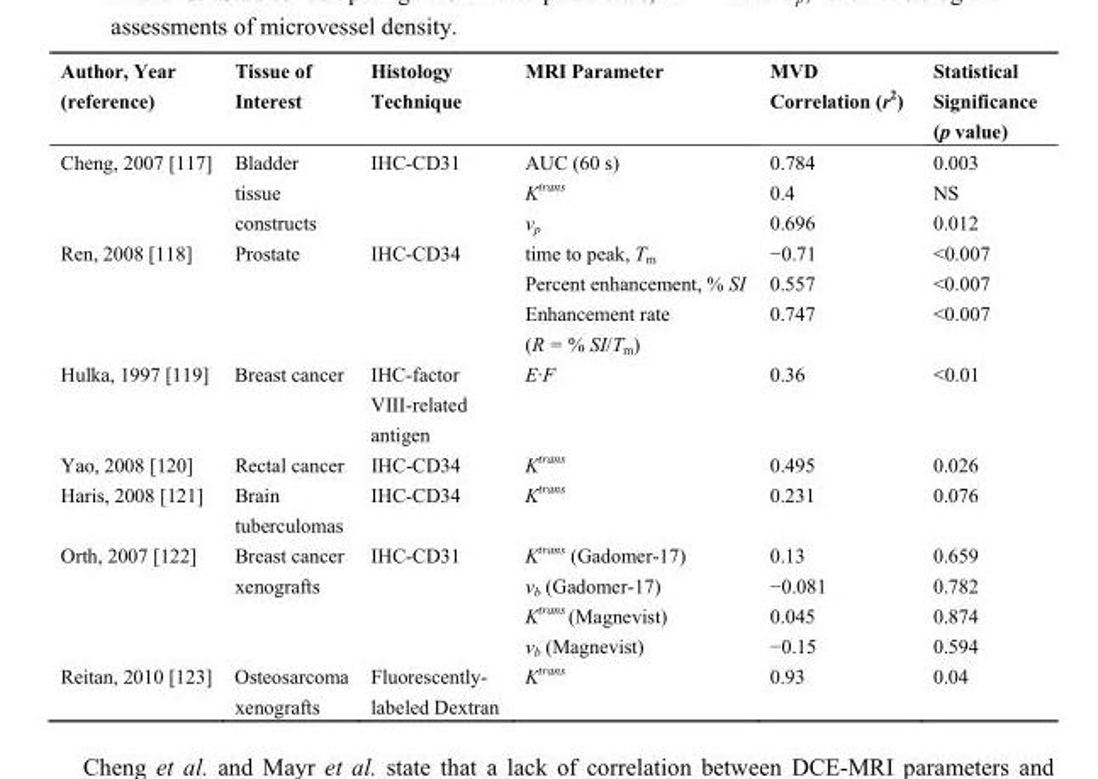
<table><thead><tr><td>Author, Year (reference)</td><td>Tissue of Interest</td><td>Histology Technique</td><td>MRI Parameter</td><td>MVD Correlation (r<sup>2</sup>)</td><td>Statistical Significance (p value)</td></tr></thead><tbody><tr><td rowspan="3">Cheng, 2007 [117]</td><td rowspan="3">Bladder tissue constructs</td><td rowspan="3">IHC-CD31</td><td>AUC (60 s)</td><td>0.784</td><td>0.003</td></tr><tr><td>K<sup>trans</sup></td><td>0.4</td><td>NS</td></tr><tr><td>v<sub>p</sub></td><td>0.696</td><td>0.012</td></tr><tr><td rowspan="3">Ren, 2008 [118]</td><td rowspan="3">Prostate</td><td rowspan="3">IHC-CD34</td><td>time to peak, T<sub>m</sub></td><td>−0.71</td><td>&lt;0.007</td></tr><tr><td>Percent enhancement, % SI</td><td>0.557</td><td>&lt;0.007</td></tr><tr><td>Enhancement rate (R = % SI/T<sub>m</sub>)</td><td>0.747</td><td>&lt;0.007</td></tr><tr><td>Hulka, 1997 [119]</td><td>Breast cancer</td><td>IHC-factor VIII-related antigen</td><td>E·F</td><td>0.36</td><td>&lt;0.01</td></tr><tr><td>Yao, 2008 [120]</td><td>Rectal cancer</td><td>IHC-CD34</td><td>K<sup>trans</sup></td><td>0.495</td><td>0.026</td></tr><tr><td>Haris, 2008 [121]</td><td>Brain tuberculomas</td><td>IHC-CD34</td><td>K<sup>trans</sup></td><td>0.231</td><td>0.076</td></tr><tr><td rowspan="4">Orth, 2007 [122]</td><td rowspan="4">Breast cancer xenografts</td><td rowspan="4">IHC-CD31</td><td>K<sup>trans</sup> (Gadomer-17)</td><td>0.13</td><td>0.659</td></tr><tr><td>v<sub>b</sub> (Gadomer-17)</td><td>−0.081</td><td>0.782</td></tr><tr><td>K<sup>trans</sup> (Magnevist)</td><td>0.045</td><td>0.874</td></tr><tr><td>v<sub>b</sub> (Magnevist)</td><td>−0.15</td><td>0.594</td></tr><tr><td>Reitan, 2010 [123]</td><td>Osteosarcoma xenografts</td><td>Fluorescently- labeled Dextran</td><td>K<sup>trans</sup></td><td>0.93</td><td>0.04</td></tr></tbody></table>